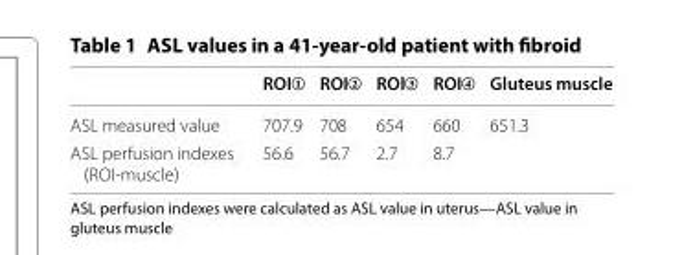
<table><thead><tr><td></td><td>ROI①</td><td>ROI②</td><td>ROl③</td><td>ROI④</td><td>Gluteus muscle</td></tr></thead><tbody><tr><td>ASL measured value</td><td>707.9</td><td>708</td><td>654</td><td>660</td><td>651.3</td></tr><tr><td>ASL perfusion indexes (ROI-muscle)</td><td>56.6</td><td>56.7</td><td>2.7</td><td>8.7</td><td></td></tr></tbody></table>